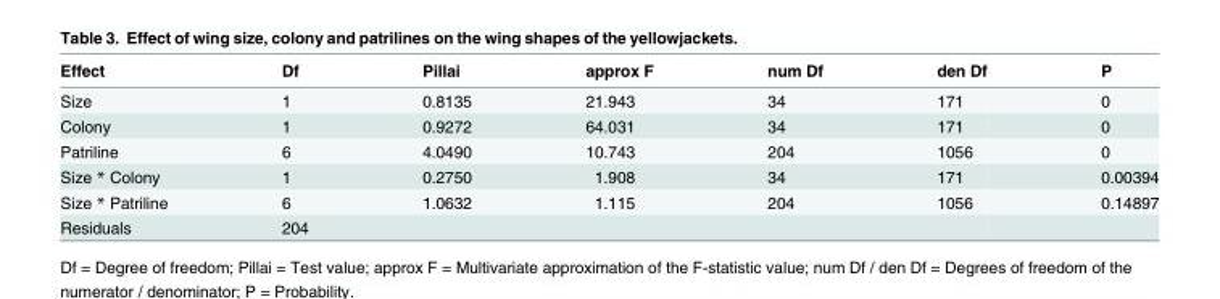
<table><thead><tr><td>Effect</td><td>Df</td><td>Pillai</td><td>approx F</td><td>num Df</td><td>den Df</td><td>P</td></tr></thead><tbody><tr><td>Size</td><td>1</td><td>0.8135</td><td>21.943</td><td>34</td><td>171</td><td>0</td></tr><tr><td>Colony</td><td>1</td><td>0.9272</td><td>64.031</td><td>34</td><td>171</td><td>0</td></tr><tr><td>Patriline</td><td>6</td><td>4.0490</td><td>10.743</td><td>204</td><td>1056</td><td>0</td></tr><tr><td>Size * Colony</td><td>1</td><td>0.2750</td><td>1.908</td><td>34</td><td>171</td><td>0.00394</td></tr><tr><td>Size * Patriline</td><td>6</td><td>1.0632</td><td>1.115</td><td>204</td><td>1056</td><td>0.14897</td></tr><tr><td>Residuals</td><td>204</td><td></td><td></td><td></td><td></td><td></td></tr></tbody></table>